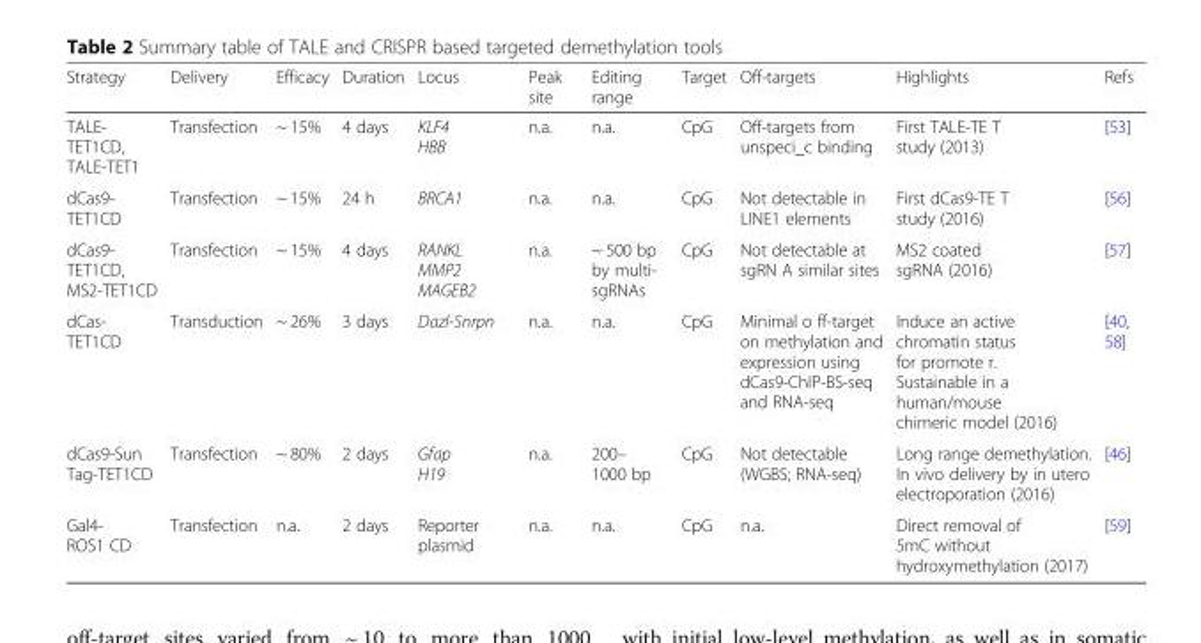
<table><thead><tr><td>Strategy</td><td>Delivery</td><td>Efficacy</td><td>Duration</td><td>Locus</td><td>Peak site</td><td>Editing range</td><td>Target</td><td>Off-targets</td><td>Highlights</td><td>Refs</td></tr></thead><tbody><tr><td>TALE- TET1CD, TALE-TET1</td><td>Transfection</td><td>~ 15%</td><td>4 days</td><td>KLF4 HBB</td><td>n.a.</td><td>n.a.</td><td>CpG</td><td>Off-targets from unspeci_c binding</td><td>First TALE-TE T study (2013)</td><td>[53]</td></tr><tr><td>dCas9- TET1CD</td><td>Transfection</td><td>~ 15%</td><td>24 h</td><td>BRCA1</td><td>n.a.</td><td>n.a.</td><td>CpG</td><td>Not detectable in LINE1 elements</td><td>First dCas9-TE T study (2016)</td><td>[56]</td></tr><tr><td>dCas9- TET1CD, MS2-TET1CD</td><td>Transfection</td><td>~ 15%</td><td>4 days</td><td>RANKL MMP2 MAGEB2</td><td>n.a.</td><td>~ 500 bp by multi- sgRNAs</td><td>CpG</td><td>Not detectable at sgRN A similar sites</td><td>MS2 coated sgRNA (2016)</td><td>[57]</td></tr><tr><td>dCas- TET1CD</td><td>Transduction</td><td>~ 26%</td><td>3 days</td><td>Dazl-Snrpn</td><td>n.a.</td><td>n.a.</td><td>CpG</td><td>Minimal o ff-target on methylation and expression using dCas9-ChIP-BS-seq and RNA-seq</td><td>Induce an active chromatin status for promote r. Sustainable in a human/mouse chimeric model (2016)</td><td>[40, 58]</td></tr><tr><td>dCas9-Sun Tag-TET1CD</td><td>Transfection</td><td>~ 80%</td><td>2 days</td><td>Gfap H19</td><td>n.a.</td><td>200– 1000 bp</td><td>CpG</td><td>Not detectable (WGBS; RNA-seq)</td><td>Long range demethylation. In vivo delivery by in utero electroporation (2016)</td><td>[46]</td></tr><tr><td>Gal4- ROS1 CD</td><td>Transfection</td><td>n.a.</td><td>2 days</td><td>Reporter plasmid</td><td>n.a.</td><td>n.a.</td><td>CpG</td><td>n.a.</td><td>Direct removal of 5mC without hydroxymethylation (2017)</td><td>[59]</td></tr></tbody></table>